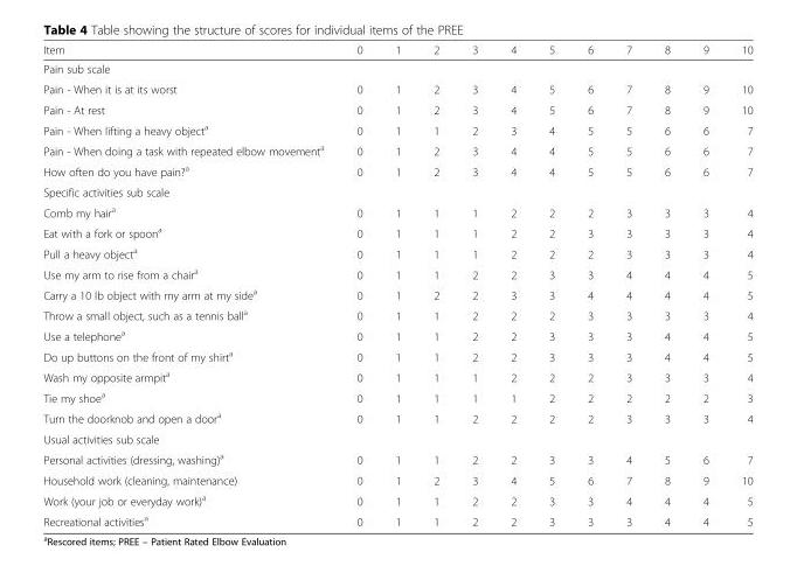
<table><thead><tr><td>Item</td><td>0</td><td>1</td><td>2</td><td>3</td><td>4</td><td>5</td><td>6</td><td>7</td><td>8</td><td>9</td><td>10</td></tr></thead><tbody><tr><td colspan="12">Pain sub scale</td></tr><tr><td>Pain - When it is at its worst</td><td>0</td><td>1</td><td>2</td><td>3</td><td>4</td><td>5</td><td>6</td><td>7</td><td>8</td><td>9</td><td>10</td></tr><tr><td>Pain - At rest</td><td>0</td><td>1</td><td>2</td><td>3</td><td>4</td><td>5</td><td>6</td><td>7</td><td>8</td><td>9</td><td>10</td></tr><tr><td>Pain - When lifting a heavy object<sup>a</sup></td><td>0</td><td>1</td><td>1</td><td>2</td><td>3</td><td>4</td><td>5</td><td>5</td><td>6</td><td>6</td><td>7</td></tr><tr><td>Pain - When doing a task with repeated elbow movement<sup>a</sup></td><td>0</td><td>1</td><td>2</td><td>3</td><td>4</td><td>4</td><td>5</td><td>5</td><td>6</td><td>6</td><td>7</td></tr><tr><td>How often do you have pain?<sup>a</sup></td><td>0</td><td>1</td><td>2</td><td>3</td><td>4</td><td>4</td><td>5</td><td>5</td><td>6</td><td>6</td><td>7</td></tr><tr><td colspan="12">Specific activities sub scale</td></tr><tr><td>Comb my hair<sup>a</sup></td><td>0</td><td>1</td><td>1</td><td>1</td><td>2</td><td>2</td><td>2</td><td>3</td><td>3</td><td>3</td><td>4</td></tr><tr><td>Eat with a fork or spoon<sup>a</sup></td><td>0</td><td>1</td><td>1</td><td>1</td><td>2</td><td>2</td><td>3</td><td>3</td><td>3</td><td>3</td><td>4</td></tr><tr><td>Pull a heavy object<sup>a</sup></td><td>0</td><td>1</td><td>1</td><td>1</td><td>2</td><td>2</td><td>2</td><td>3</td><td>3</td><td>3</td><td>4</td></tr><tr><td>Use my arm to rise from a chair<sup>a</sup></td><td>0</td><td>1</td><td>1</td><td>2</td><td>2</td><td>3</td><td>3</td><td>4</td><td>4</td><td>4</td><td>5</td></tr><tr><td>Carry a 10 lb object with my arm at my side<sup>a</sup></td><td>0</td><td>1</td><td>2</td><td>2</td><td>3</td><td>3</td><td>4</td><td>4</td><td>4</td><td>4</td><td>5</td></tr><tr><td>Throw a small object, such as a tennis ball<sup>a</sup></td><td>0</td><td>1</td><td>1</td><td>2</td><td>2</td><td>2</td><td>3</td><td>3</td><td>3</td><td>3</td><td>4</td></tr><tr><td>Use a telephone<sup>a</sup></td><td>0</td><td>1</td><td>1</td><td>2</td><td>2</td><td>3</td><td>3</td><td>3</td><td>4</td><td>4</td><td>5</td></tr><tr><td>Do up buttons on the front of my shirt<sup>a</sup></td><td>0</td><td>1</td><td>1</td><td>2</td><td>2</td><td>3</td><td>3</td><td>3</td><td>4</td><td>4</td><td>5</td></tr><tr><td>Wash my opposite armpit<sup>a</sup></td><td>0</td><td>1</td><td>1</td><td>1</td><td>2</td><td>2</td><td>2</td><td>3</td><td>3</td><td>3</td><td>4</td></tr><tr><td>Tie my shoe<sup>a</sup></td><td>0</td><td>1</td><td>1</td><td>1</td><td>1</td><td>2</td><td>2</td><td>2</td><td>2</td><td>2</td><td>3</td></tr><tr><td>Turn the doorknob and open a door<sup>a</sup></td><td>0</td><td>1</td><td>1</td><td>2</td><td>2</td><td>2</td><td>2</td><td>3</td><td>3</td><td>3</td><td>4</td></tr><tr><td colspan="12">Usual activities sub scale</td></tr><tr><td>Personal activities (dressing, washing)<sup>a</sup></td><td>0</td><td>1</td><td>1</td><td>2</td><td>2</td><td>3</td><td>3</td><td>4</td><td>5</td><td>6</td><td>7</td></tr><tr><td>Household work (cleaning, maintenance)</td><td>0</td><td>1</td><td>2</td><td>3</td><td>4</td><td>5</td><td>6</td><td>7</td><td>8</td><td>9</td><td>10</td></tr><tr><td>Work (your job or everyday work)<sup>a</sup></td><td>0</td><td>1</td><td>1</td><td>2</td><td>2</td><td>3</td><td>3</td><td>4</td><td>4</td><td>4</td><td>5</td></tr><tr><td>Recreational activities<sup>a</sup></td><td>0</td><td>1</td><td>1</td><td>2</td><td>2</td><td>3</td><td>3</td><td>3</td><td>4</td><td>4</td><td>5</td></tr></tbody></table>